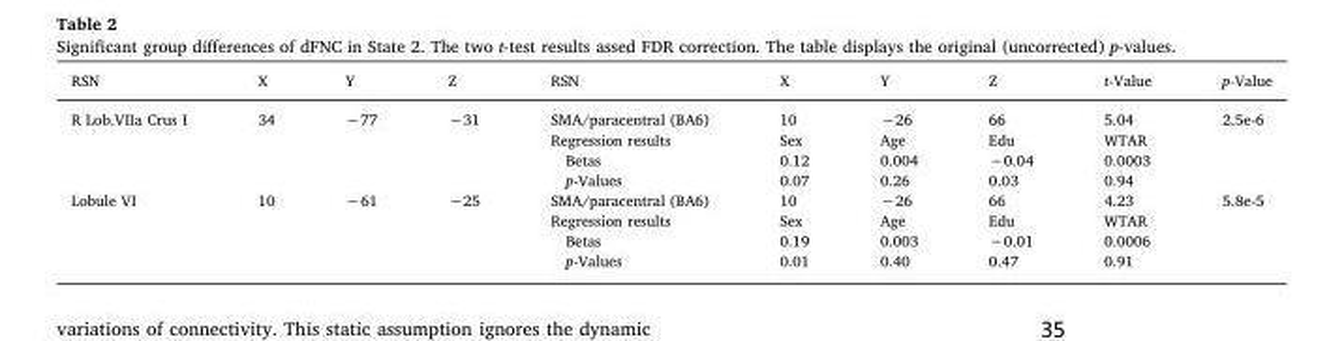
<table><thead><tr><td>RSN</td><td>X</td><td>Y</td><td>Z</td><td>RSN</td><td>X</td><td>Y</td><td>Z</td><td>t-Value</td><td>p-Value</td></tr></thead><tbody><tr><td rowspan="4">R Lob.VIIa Crus I</td><td>34</td><td>−77</td><td>−31</td><td>SMA/paracentral (BA6)</td><td>10</td><td>−26</td><td>66</td><td>5.04</td><td>2.5e-6</td></tr><tr><td></td><td></td><td></td><td>Regression results</td><td>Sex</td><td>Age</td><td>Edu</td><td>WTAR</td><td></td></tr><tr><td></td><td></td><td></td><td>Betas</td><td>0.12</td><td>0.004</td><td>−0.04</td><td>0.0003</td><td></td></tr><tr><td></td><td></td><td></td><td>p-Values</td><td>0.07</td><td>0.26</td><td>0.03</td><td>0.94</td><td></td></tr><tr><td rowspan="4">Lobule VI</td><td>10</td><td>−61</td><td>−25</td><td>SMA/paracentral (BA6)</td><td>10</td><td>−26</td><td>66</td><td>4.23</td><td>5.8e-5</td></tr><tr><td></td><td></td><td></td><td>Regression results</td><td>Sex</td><td>Age</td><td>Edu</td><td>WTAR</td><td></td></tr><tr><td></td><td></td><td></td><td>Betas</td><td>0.19</td><td>0.003</td><td>−0.01</td><td>0.0006</td><td></td></tr><tr><td></td><td></td><td></td><td>p-Values</td><td>0.01</td><td>0.40</td><td>0.47</td><td>0.91</td><td></td></tr></tbody></table>